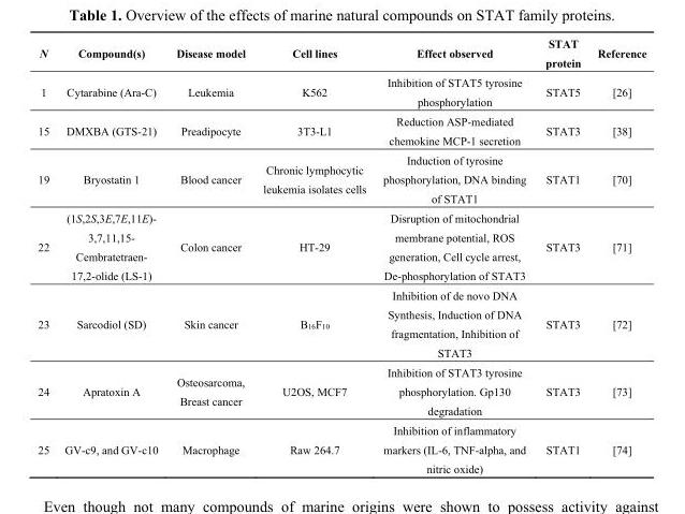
<table><thead><tr><td>N</td><td>Compound(s)</td><td>Disease model</td><td>Cell lines</td><td>Effect observed</td><td>STAT protein</td><td>Reference</td></tr></thead><tbody><tr><td>1</td><td>Cytarabine (Ara-C)</td><td>Leukemia</td><td>K562</td><td>Inhibition of STAT5 tyrosine phosphorylation</td><td>STAT5</td><td>[26]</td></tr><tr><td>15</td><td>DMXBA (GTS-21)</td><td>Preadipocyte</td><td>3T3-L1</td><td>Reduction ASP-mediated chemokine MCP-1 secretion</td><td>STAT3</td><td>[38]</td></tr><tr><td>19</td><td>Bryostatin 1</td><td>Blood cancer</td><td>Chronic lymphocytic leukemia isolates cells</td><td>Induction of tyrosine phosphorylation, DNA binding of STAT1</td><td>STAT1</td><td>[70]</td></tr><tr><td>22</td><td>(1S,2S,3E,7E,11E)- 3,7,11,15- Cembratetraen- 17,2-olide (LS-1)</td><td>Colon cancer</td><td>HT-29</td><td>Disruption of mitochondrial membrane potential, ROS generation, Cell cycle arrest, De-phosphorylation of STAT3</td><td>STAT3</td><td>[71]</td></tr><tr><td>23</td><td>Sarcodiol (SD)</td><td>Skin cancer</td><td>B<sub>16</sub>F<sub>10</sub></td><td>Inhibition of de novo DNA Synthesis, Induction of DNA fragmentation, Inhibition of STAT3</td><td>STAT3</td><td>[72]</td></tr><tr><td>24</td><td>Apratoxin A</td><td>Osteosarcoma, Breast cancer</td><td>U2OS, MCF7</td><td>Inhibition of STAT3 tyrosine phosphorylation. Gp130 degradation</td><td>STAT3</td><td>[73]</td></tr><tr><td>25</td><td>GV-c9, and GV-c10</td><td>Macrophage</td><td>Raw 264.7</td><td>Inhibition of inflammatory markers (IL-6, TNF-alpha, and nitric oxide)</td><td>STAT1</td><td>[74]</td></tr></tbody></table>